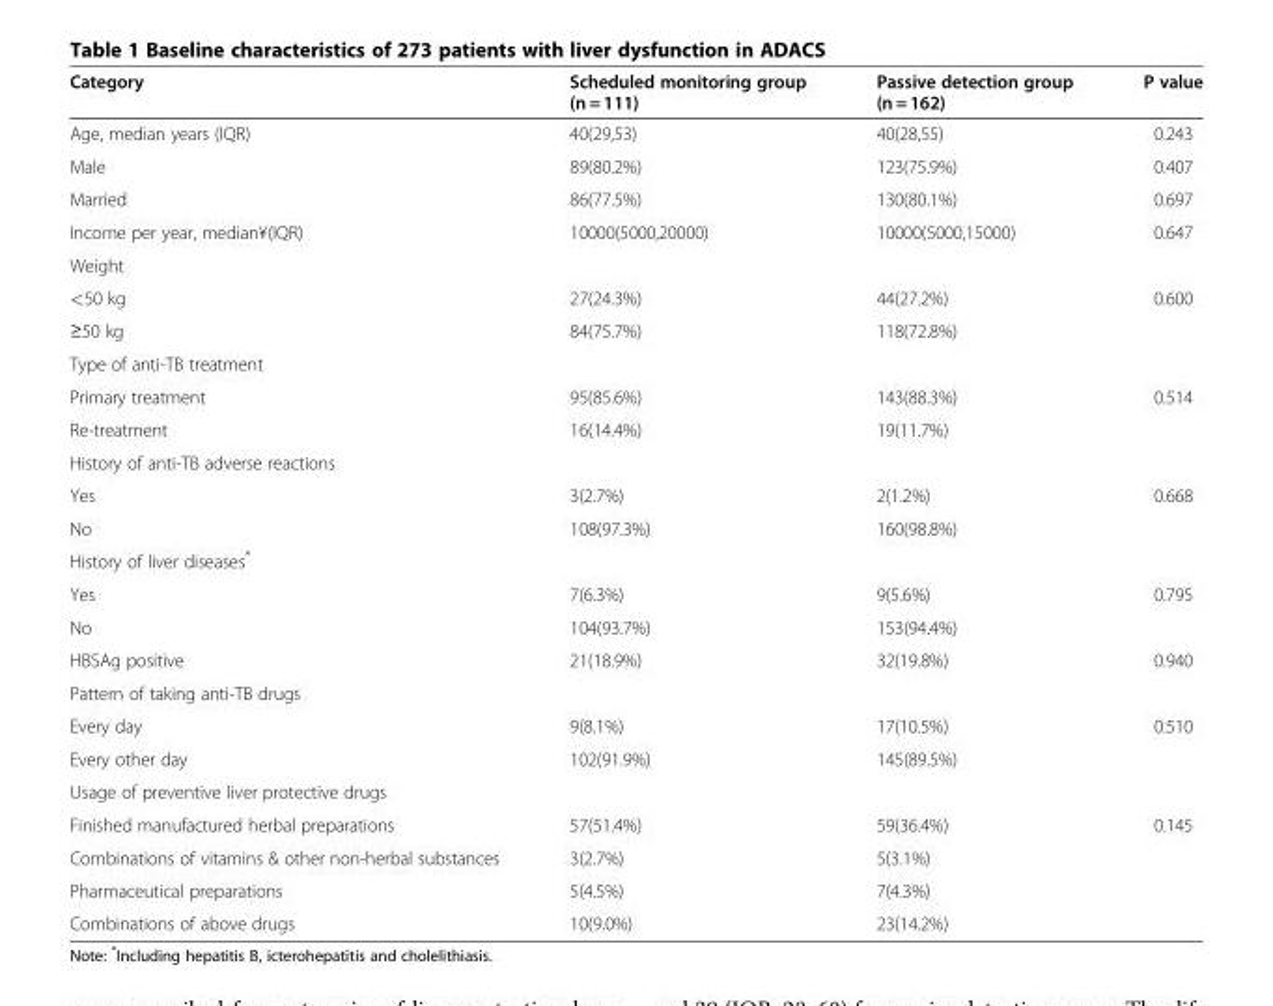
<table><thead><tr><td>Category</td><td>Scheduled monitoring group (n = 111)</td><td>Passive detection group (n = 162)</td><td>P value</td></tr></thead><tbody><tr><td>Age, median years (IQR)</td><td>40(29,53)</td><td>40(28,55)</td><td>0.243</td></tr><tr><td>Male</td><td>89(80.2%)</td><td>123(75.9%)</td><td>0.407</td></tr><tr><td>Married</td><td>86(77.5%)</td><td>130(80.1%)</td><td>0.697</td></tr><tr><td>Income per year, median¥(IQR)</td><td>10000(5000,20000)</td><td>10000(5000,15000)</td><td>0.647</td></tr><tr><td colspan="4">Weight</td></tr><tr><td>&lt;50 kg</td><td>27(24.3%)</td><td>44(27.2%)</td><td>0.600</td></tr><tr><td>≥50 kg</td><td>84(75.7%)</td><td>118(72.8%)</td><td></td></tr><tr><td colspan="4">Type of anti-TB treatment</td></tr><tr><td>Primary treatment</td><td>95(85.6%)</td><td>143(88.3%)</td><td>0.514</td></tr><tr><td>Re-treatment</td><td>16(14.4%)</td><td>19(11.7%)</td><td></td></tr><tr><td colspan="4">History of anti-TB adverse reactions</td></tr><tr><td>Yes</td><td>3(2.7%)</td><td>2(1.2%)</td><td>0.668</td></tr><tr><td>No</td><td>108(97.3%)</td><td>160(98.8%)</td><td></td></tr><tr><td colspan="4">History of liver diseases*</td></tr><tr><td>Yes</td><td>7(6.3%)</td><td>9(5.6%)</td><td>0.795</td></tr><tr><td>No</td><td>104(93.7%)</td><td>153(94.4%)</td><td></td></tr><tr><td>HBSAg positive</td><td>21(18.9%)</td><td>32(19.8%)</td><td>0.940</td></tr><tr><td colspan="4">Pattern of taking anti-TB drugs</td></tr><tr><td>Every day</td><td>9(8.1%)</td><td>17(10.5%)</td><td>0.510</td></tr><tr><td>Every other day</td><td>102(91.9%)</td><td>145(89.5%)</td><td></td></tr><tr><td colspan="4">Usage of preventive liver protective drugs</td></tr><tr><td>Finished manufactured herbal preparations</td><td>57(51.4%)</td><td>59(36.4%)</td><td>0.145</td></tr><tr><td>Combinations of vitamins &amp; other non-herbal substances</td><td>3(2.7%)</td><td>5(3.1%)</td><td></td></tr><tr><td>Pharmaceutical preparations</td><td>5(4.5%)</td><td>7(4.3%)</td><td></td></tr><tr><td>Combinations of above drugs</td><td>10(9.0%)</td><td>23(14.2%)</td><td></td></tr></tbody></table>